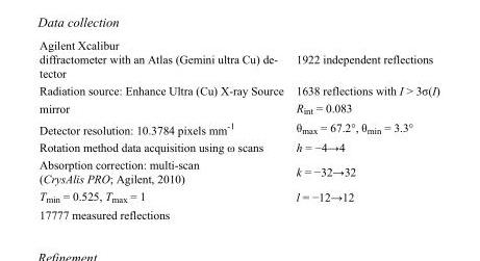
<table><tbody><tr><td>Agilent Xcalibur diffractometer with an Atlas (Gemini ultra Cu) de- tector</td><td>1922 independent reflections</td></tr><tr><td>Radiation source: Enhance Ultra (Cu) X-ray Source</td><td>1638 reflections with I &gt; 3σ(I)</td></tr><tr><td>mirror</td><td>R<sub>int</sub> = 0.083</td></tr><tr><td>Detector resolution: 10.3784 pixels mm<sup>-1</sup></td><td>θ<sub>max</sub> = 67.2°, θ<sub>min</sub> = 3.3°</td></tr><tr><td>Rotation method data acquisition using ω scans</td><td>h = −4→4</td></tr><tr><td>Absorption correction: multi-scan (CrysAlis PRO; Agilent, 2010)</td><td>k = −32→32</td></tr><tr><td>T<sub>min</sub> = 0.525, T<sub>max</sub> = 1</td><td>l = −12→12</td></tr><tr><td>17777 measured reflections</td><td></td></tr></tbody></table>